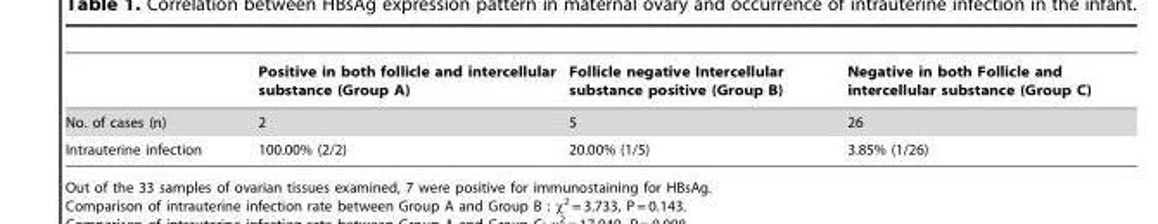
<table><thead><tr><td></td><td>Positive in both follicle and intercellular substance (Group A)</td><td>Follicle negative Intercellular substance positive (Group B)</td><td>Negative in both Follicle and intercellular substance (Group C)</td></tr></thead><tbody><tr><td>No. of cases (n)</td><td>2</td><td>5</td><td>26</td></tr><tr><td>Intrauterine infection</td><td>100.00% (2/2)</td><td>20.00% (1/5)</td><td>3.85% (1/26)</td></tr></tbody></table>